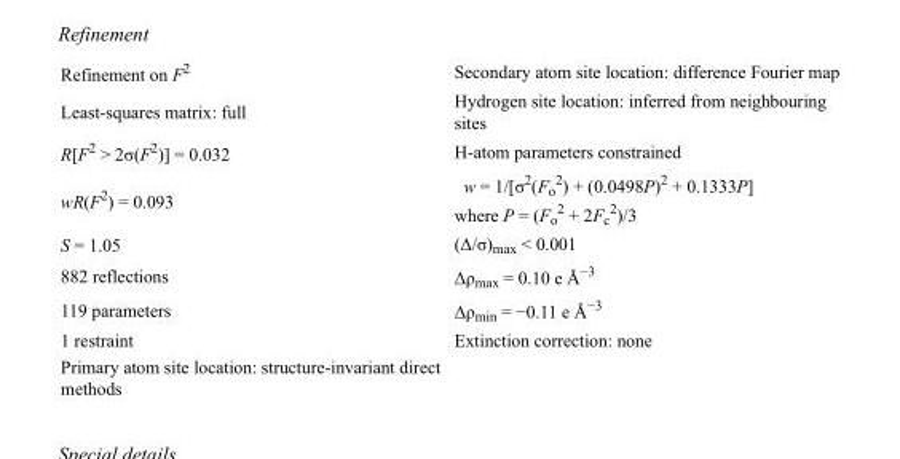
<table><tbody><tr><td>Refinement on F<sup>2</sup></td><td>Secondary atom site location: difference Fourier map</td></tr><tr><td>Least-squares matrix: full</td><td>Hydrogen site location: inferred from neighbouring sites</td></tr><tr><td>R[F<sup>2</sup> &gt; 2σ(F<sup>2</sup>)] = 0.032</td><td>H-atom parameters constrained</td></tr><tr><td>wR(F<sup>2</sup>) = 0.093</td><td>w = 1/[σ<sup>2</sup>(F<sub>o</sub> <sup>2</sup>) + (0.0498P)<sup>2</sup> + 0.1333P] where P = (F<sub>o</sub> <sup>2</sup> + 2F<sub>c</sub> <sup>2</sup>)/3</td></tr><tr><td>S = 1.05</td><td>(Δ/σ)<sub>max</sub> &lt; 0.001</td></tr><tr><td>882 reflections</td><td>Δρ<sub>max</sub> = 0.10 e Å<sup>−3</sup></td></tr><tr><td>119 parameters</td><td>Δρ<sub>min</sub> = −0.11 e Å<sup>−3</sup></td></tr><tr><td>1 restraint</td><td>Extinction correction: none</td></tr><tr><td>Primary atom site location: structure-invariant direct methods</td><td></td></tr></tbody></table>